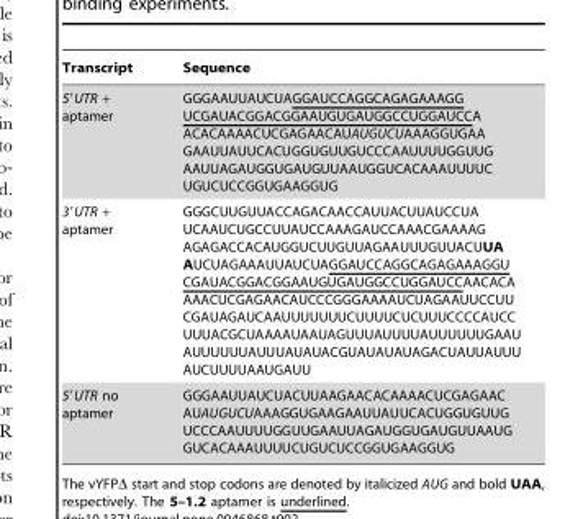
<table><thead><tr><td>Transcript</td><td>Sequence</td></tr></thead><tbody><tr><td>5′UTR + aptamer</td><td>GGGAAUUAUCUAGGAUCCAGGCAGAGAAAGG UCGAUACGGACGGAAUGUGAUGGCCUGGAUCCA ACACAAAACUCGAGAACAUAUGUCUAAAGGUGAA GAAUUAUUCACUGGUGUUGUCCCAAUUUUGGUUG AAUUAGAUGGUGAUGUUAAUGGUCACAAAUUUUC UGUCUCCGGUGAAGGUG</td></tr><tr><td>3′UTR + aptamer</td><td>GGGCUUGUUACCAGACAACCAUUACUUAUCCUA UCAAUCUGCCUUAUCCAAAGAUCCAAACGAAAAG AGAGACCACAUGGUCUUGUUAGAAUUUGUUACUUA AUCUAGAAAUUAUCUAGGAUCCAGGCAGAGAAAGGU CGAUACGGACGGAAUGUGAUGGCCUGGAUCCAACACA AAACUCGAGAACAUCCCGGGAAAAUCUAGAAUUCCUU CGAUAGAUCAAUUUUUUUCUUUUCUCUUUCCCCAUCC UUUACGCUAAAAUAAUAGUUUAUUUUAUUUUUUGAAU AUUUUUUAUUUAUAUACGUAUAUAUAGACUAUUAUUU AUCUUUUAAUGAUU</td></tr><tr><td>5′UTR no aptamer</td><td>GGGAAUUAUCUACUUAAGAACACAAAACUCGAGAAC AUAUGUCUAAAGGUGAAGAAUUAUUCACUGGUGUUG UCCCAAUUUUGGUUGAAUUAGAUGGUGAUGUUAAUG GUCACAAAUUUUCUGUCUCCGGUGAAGGUG</td></tr></tbody></table>